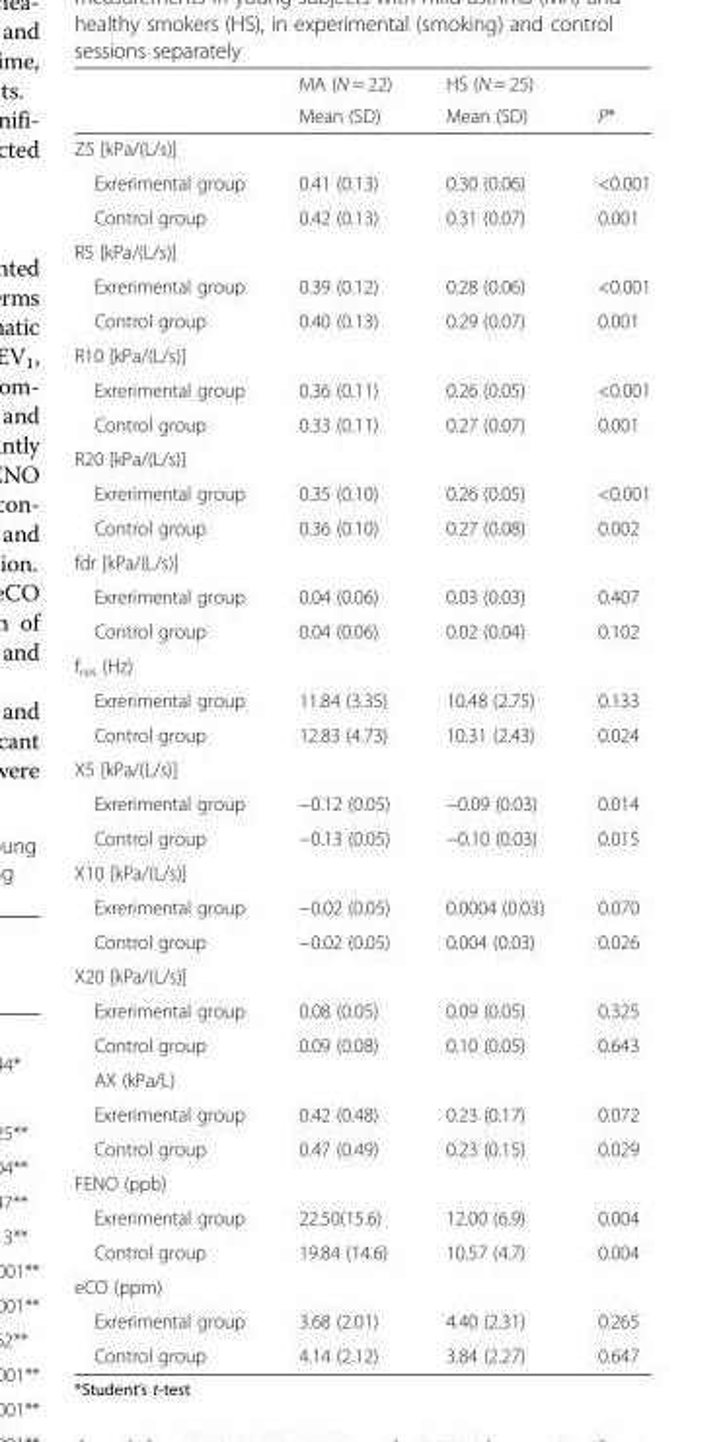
<table><thead><tr><td rowspan="2"></td><td rowspan="2">MA (N = 22) Mean (SD)</td><td rowspan="2">HS (N = 25) Mean (SD)</td><td rowspan="2">P*</td></tr><tr></tr></thead><tbody><tr><td colspan="4">Z5 [kPa/(L/s)]</td></tr><tr><td>Exrerimental group</td><td>0.41 (0.13)</td><td>0.30 (0.06)</td><td>&lt;0.001</td></tr><tr><td>Control group</td><td>0.42 (0.13)</td><td>0.31 (0.07)</td><td>0.001</td></tr><tr><td colspan="4">R5 [kPa/(L/s)]</td></tr><tr><td>Exrerimental group</td><td>0.39 (0.12)</td><td>0.28 (0.06)</td><td>&lt;0.001</td></tr><tr><td>Control group</td><td>0.40 (0.13)</td><td>0.29 (0.07)</td><td>0.001</td></tr><tr><td colspan="4">R10 [kPa/(L/s)]</td></tr><tr><td>Exrerimental group</td><td>0.36 (0.11)</td><td>0.26 (0.05)</td><td>&lt;0.001</td></tr><tr><td>Control group</td><td>0.33 (0.11)</td><td>0.27 (0.07)</td><td>0.001</td></tr><tr><td colspan="4">R20 [kPa/(L/s)]</td></tr><tr><td>Exrerimental group</td><td>0.35 (0.10)</td><td>0.26 (0.05)</td><td>&lt;0.001</td></tr><tr><td>Control group</td><td>0.36 (0.10)</td><td>0.27 (0.08)</td><td>0.002</td></tr><tr><td colspan="4">fdr [kPa/(L/s)]</td></tr><tr><td>Exrerimental group</td><td>0.04 (0.06)</td><td>0.03 (0.03)</td><td>0.407</td></tr><tr><td>Control group</td><td>0.04 (0.06)</td><td>0.02 (0.04)</td><td>0.102</td></tr><tr><td colspan="4">f<sub>res</sub> (Hz)</td></tr><tr><td>Exrerimental group</td><td>11.84 (3.35)</td><td>10.48 (2.75)</td><td>0.133</td></tr><tr><td>Control group</td><td>12.83 (4.73)</td><td>10.31 (2.43)</td><td>0.024</td></tr><tr><td colspan="4">X5 [kPa/(L/s)]</td></tr><tr><td>Exrerimental group</td><td>−0.12 (0.05)</td><td>−0.09 (0.03)</td><td>0.014</td></tr><tr><td>Control group</td><td>−0.13 (0.05)</td><td>−0.10 (0.03)</td><td>0.015</td></tr><tr><td colspan="4">X10 [kPa/(L/s)]</td></tr><tr><td>Exrerimental group</td><td>−0.02 (0.05)</td><td>0.0004 (0.03)</td><td>0.070</td></tr><tr><td>Control group</td><td>−0.02 (0.05)</td><td>0.004 (0.03)</td><td>0.026</td></tr><tr><td colspan="4">X20 [kPa/(L/s)]</td></tr><tr><td>Exrerimental group</td><td>0.08 (0.05)</td><td>0.09 (0.05)</td><td>0.325</td></tr><tr><td>Control group</td><td>0.09 (0.08)</td><td>0.10 (0.05)</td><td>0.643</td></tr><tr><td colspan="4">AX (kPa/L)</td></tr><tr><td>Exrerimental group</td><td>0.42 (0.48)</td><td>0.23 (0.17)</td><td>0.072</td></tr><tr><td>Control group</td><td>0.47 (0.49)</td><td>0.23 (0.15)</td><td>0.029</td></tr><tr><td colspan="4">FENO (ppb)</td></tr><tr><td>Exrerimental group</td><td>22.50(15.6)</td><td>12.00 (6.9)</td><td>0.004</td></tr><tr><td>Control group</td><td>19.84 (14.6)</td><td>10.57 (4.7)</td><td>0.004</td></tr><tr><td colspan="4">eCO (ppm)</td></tr><tr><td>Exrerimental group</td><td>3.68 (2.01)</td><td>4.40 (2.31)</td><td>0.265</td></tr><tr><td>Control group</td><td>4.14 (2.12)</td><td>3.84 (2.27)</td><td>0.647</td></tr></tbody></table>